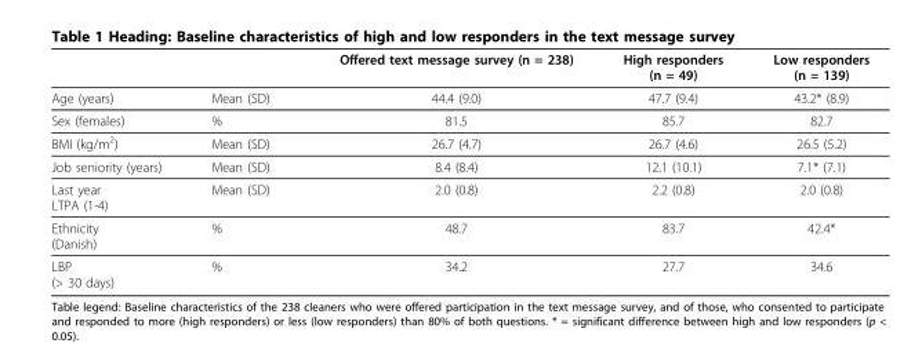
<table><thead><tr><td></td><td></td><td>Offered text message survey (n = 238)</td><td>High responders (n = 49)</td><td>Low responders (n = 139)</td></tr></thead><tbody><tr><td>Age (years)</td><td>Mean (SD)</td><td>44.4 (9.0)</td><td>47.7 (9.4)</td><td>43.2* (8.9)</td></tr><tr><td>Sex (females)</td><td>%</td><td>81.5</td><td>85.7</td><td>82.7</td></tr><tr><td>BMI (kg/m<sup>2</sup>)</td><td>Mean (SD)</td><td>26.7 (4.7)</td><td>26.7 (4.6)</td><td>26.5 (5.2)</td></tr><tr><td>Job seniority (years)</td><td>Mean (SD)</td><td>8.4 (8.4)</td><td>12.1 (10.1)</td><td>7.1* (7.1)</td></tr><tr><td>Last year LTPA (1-4)</td><td>Mean (SD)</td><td>2.0 (0.8)</td><td>2.2 (0.8)</td><td>2.0 (0.8)</td></tr><tr><td>Ethnicity (Danish)</td><td>%</td><td>48.7</td><td>83.7</td><td>42.4*</td></tr><tr><td>LBP (&gt; 30 days)</td><td>%</td><td>34.2</td><td>27.7</td><td>34.6</td></tr></tbody></table>